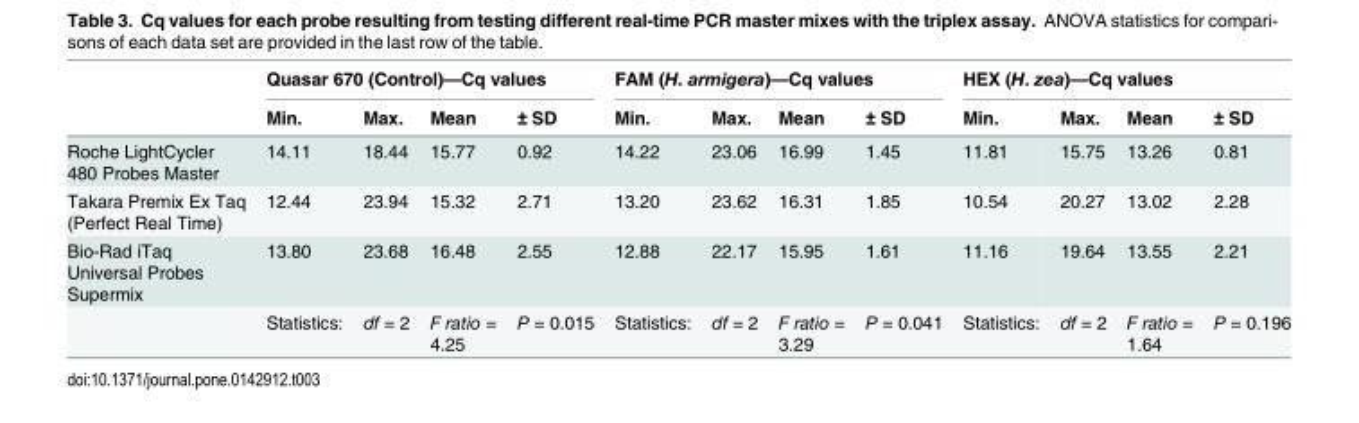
<table><thead><tr><td rowspan="2"></td><td colspan="4">Quasar 670 (Control)—Cq values</td><td colspan="4">FAM (H. armigera)—Cq values</td><td colspan="4">HEX (H. zea)—Cq values</td></tr><tr><td>Min.</td><td>Max.</td><td>Mean</td><td>± SD</td><td>Min.</td><td>Max.</td><td>Mean</td><td>± SD</td><td>Min.</td><td>Max.</td><td>Mean</td><td>± SD</td></tr></thead><tbody><tr><td>Roche LightCycler 480 Probes Master</td><td>14.11</td><td>18.44</td><td>15.77</td><td>0.92</td><td>14.22</td><td>23.06</td><td>16.99</td><td>1.45</td><td>11.81</td><td>15.75</td><td>13.26</td><td>0.81</td></tr><tr><td>Takara Premix Ex Taq (Perfect Real Time)</td><td>12.44</td><td>23.94</td><td>15.32</td><td>2.71</td><td>13.20</td><td>23.62</td><td>16.31</td><td>1.85</td><td>10.54</td><td>20.27</td><td>13.02</td><td>2.28</td></tr><tr><td rowspan="2">Bio-Rad iTaq Universal Probes Supermix</td><td>13.80</td><td>23.68</td><td>16.48</td><td>2.55</td><td>12.88</td><td>22.17</td><td>15.95</td><td>1.61</td><td>11.16</td><td>19.64</td><td>13.55</td><td>2.21</td></tr><tr><td>Statistics:</td><td>df = 2</td><td>F ratio = 4.25</td><td>P = 0.015</td><td>Statistics:</td><td>df = 2</td><td>F ratio = 3.29</td><td>P = 0.041</td><td>Statistics:</td><td>df = 2</td><td>F ratio = 1.64</td><td>P = 0.196</td></tr></tbody></table>